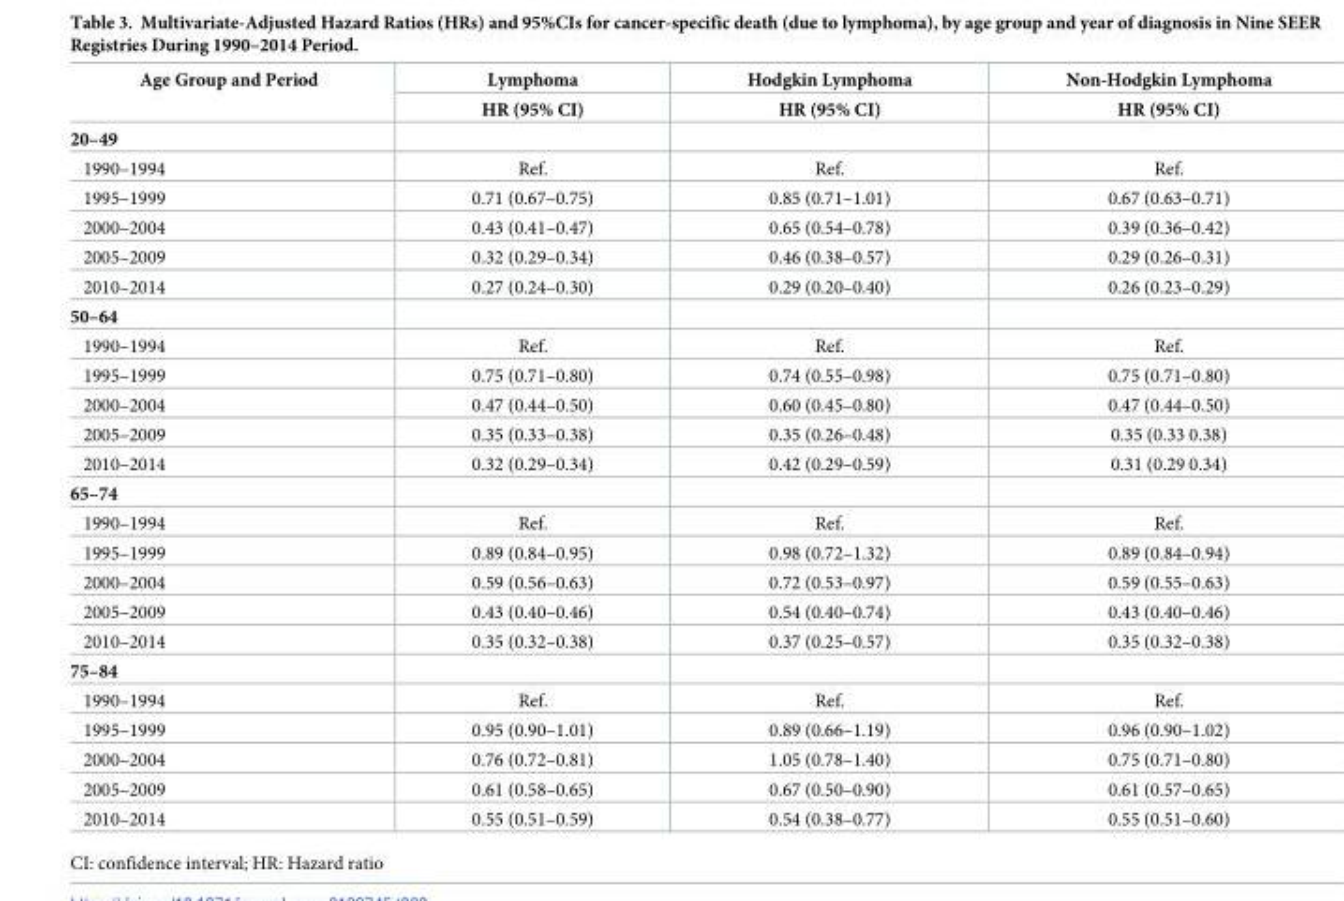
<table><thead><tr><td rowspan="2">Age Group and Period</td><td rowspan="2">Lymphoma HR (95% CI)</td><td rowspan="2">Hodgkin Lymphoma HR (95% CI)</td><td rowspan="2">Non-Hodgkin Lymphoma HR (95% CI)</td></tr><tr></tr></thead><tbody><tr><td colspan="4">20–49</td></tr><tr><td>1990–1994</td><td>Ref.</td><td>Ref.</td><td>Ref.</td></tr><tr><td>1995–1999</td><td>0.71 (0.67–0.75)</td><td>0.85 (0.71–1.01)</td><td>0.67 (0.63–0.71)</td></tr><tr><td>2000–2004</td><td>0.43 (0.41–0.47)</td><td>0.65 (0.54–0.78)</td><td>0.39 (0.36–0.42)</td></tr><tr><td>2005–2009</td><td>0.32 (0.29–0.34)</td><td>0.46 (0.38–0.57)</td><td>0.29 (0.26–0.31)</td></tr><tr><td>2010–2014</td><td>0.27 (0.24–0.30)</td><td>0.29 (0.20–0.40)</td><td>0.26 (0.23–0.29)</td></tr><tr><td colspan="4">50–64</td></tr><tr><td>1990–1994</td><td>Ref.</td><td>Ref.</td><td>Ref.</td></tr><tr><td>1995–1999</td><td>0.75 (0.71–0.80)</td><td>0.74 (0.55–0.98)</td><td>0.75 (0.71–0.80)</td></tr><tr><td>2000–2004</td><td>0.47 (0.44–0.50)</td><td>0.60 (0.45–0.80)</td><td>0.47 (0.44–0.50)</td></tr><tr><td>2005–2009</td><td>0.35 (0.33–0.38)</td><td>0.35 (0.26–0.48)</td><td>0.35 (0.33 0.38)</td></tr><tr><td>2010–2014</td><td>0.32 (0.29–0.34)</td><td>0.42 (0.29–0.59)</td><td>0.31 (0.29 0.34)</td></tr><tr><td colspan="4">65–74</td></tr><tr><td>1990–1994</td><td>Ref.</td><td>Ref.</td><td>Ref.</td></tr><tr><td>1995–1999</td><td>0.89 (0.84–0.95)</td><td>0.98 (0.72–1.32)</td><td>0.89 (0.84–0.94)</td></tr><tr><td>2000–2004</td><td>0.59 (0.56–0.63)</td><td>0.72 (0.53–0.97)</td><td>0.59 (0.55–0.63)</td></tr><tr><td>2005–2009</td><td>0.43 (0.40–0.46)</td><td>0.54 (0.40–0.74)</td><td>0.43 (0.40–0.46)</td></tr><tr><td>2010–2014</td><td>0.35 (0.32–0.38)</td><td>0.37 (0.25–0.57)</td><td>0.35 (0.32–0.38)</td></tr><tr><td colspan="4">75–84</td></tr><tr><td>1990–1994</td><td>Ref.</td><td>Ref.</td><td>Ref.</td></tr><tr><td>1995–1999</td><td>0.95 (0.90–1.01)</td><td>0.89 (0.66–1.19)</td><td>0.96 (0.90–1.02)</td></tr><tr><td>2000–2004</td><td>0.76 (0.72–0.81)</td><td>1.05 (0.78–1.40)</td><td>0.75 (0.71–0.80)</td></tr><tr><td>2005–2009</td><td>0.61 (0.58–0.65)</td><td>0.67 (0.50–0.90)</td><td>0.61 (0.57–0.65)</td></tr><tr><td>2010–2014</td><td>0.55 (0.51–0.59)</td><td>0.54 (0.38–0.77)</td><td>0.55 (0.51–0.60)</td></tr></tbody></table>